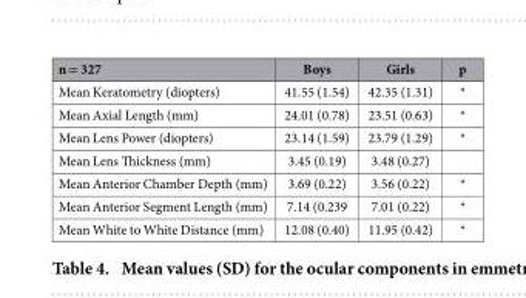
<table><thead><tr><td>n = 327</td><td>Boys</td><td>Girls</td><td>p</td></tr></thead><tbody><tr><td>Mean Keratometry (diopters)</td><td>41.55 (1.54)</td><td>42.35 (1.31)</td><td>*</td></tr><tr><td>Mean Axial Length (mm)</td><td>24.01 (0.78)</td><td>23.51 (0.63)</td><td>*</td></tr><tr><td>Mean Lens Power (diopters)</td><td>23.14 (1.59)</td><td>23.79 (1.29)</td><td>*</td></tr><tr><td>Mean Lens Thickness (mm)</td><td>3.45 (0.19)</td><td>3.48 (0.27)</td><td></td></tr><tr><td>Mean Anterior Chamber Depth (mm)</td><td>3.69 (0.22)</td><td>3.56 (0.22)</td><td>*</td></tr><tr><td>Mean Anterior Segment Length (mm)</td><td>7.14 (0.239</td><td>7.01 (0.22)</td><td>*</td></tr><tr><td>Mean White to White Distance (mm)</td><td>12.08 (0.40)</td><td>11.95 (0.42)</td><td>*</td></tr></tbody></table>